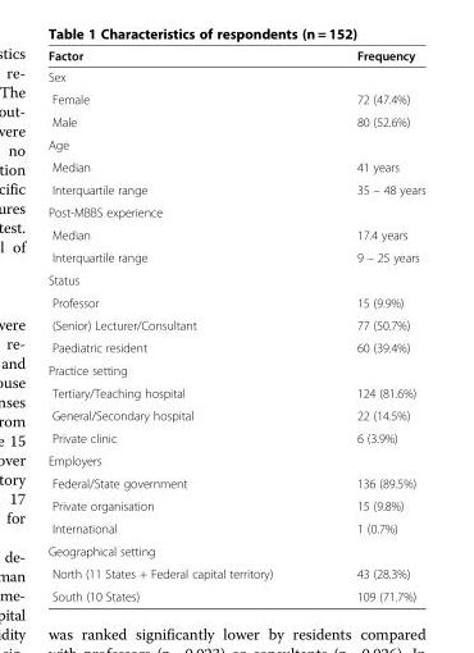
<table><thead><tr><td>Factor</td><td>Frequency</td></tr></thead><tbody><tr><td colspan="2">Sex</td></tr><tr><td>Female</td><td>72 (47.4%)</td></tr><tr><td>Male</td><td>80 (52.6%)</td></tr><tr><td colspan="2">Age</td></tr><tr><td>Median</td><td>41 years</td></tr><tr><td>Interquartile range</td><td>35 – 48 years</td></tr><tr><td colspan="2">Post-MBBS experience</td></tr><tr><td>Median</td><td>17.4 years</td></tr><tr><td>Interquartile range</td><td>9 – 25 years</td></tr><tr><td colspan="2">Status</td></tr><tr><td>Professor</td><td>15 (9.9%)</td></tr><tr><td>(Senior) Lecturer/Consultant</td><td>77 (50.7%)</td></tr><tr><td>Paediatric resident</td><td>60 (39.4%)</td></tr><tr><td colspan="2">Practice setting</td></tr><tr><td>Tertiary/Teaching hospital</td><td>124 (81.6%)</td></tr><tr><td>General/Secondary hospital</td><td>22 (14.5%)</td></tr><tr><td>Private clinic</td><td>6 (3.9%)</td></tr><tr><td colspan="2">Employers</td></tr><tr><td>Federal/State government</td><td>136 (89.5%)</td></tr><tr><td>Private organisation</td><td>15 (9.8%)</td></tr><tr><td>International</td><td>1 (0.7%)</td></tr><tr><td colspan="2">Geographical setting</td></tr><tr><td>North (11 States + Federal capital territory)</td><td>43 (28.3%)</td></tr><tr><td>South (10 States)</td><td>109 (71.7%)</td></tr></tbody></table>